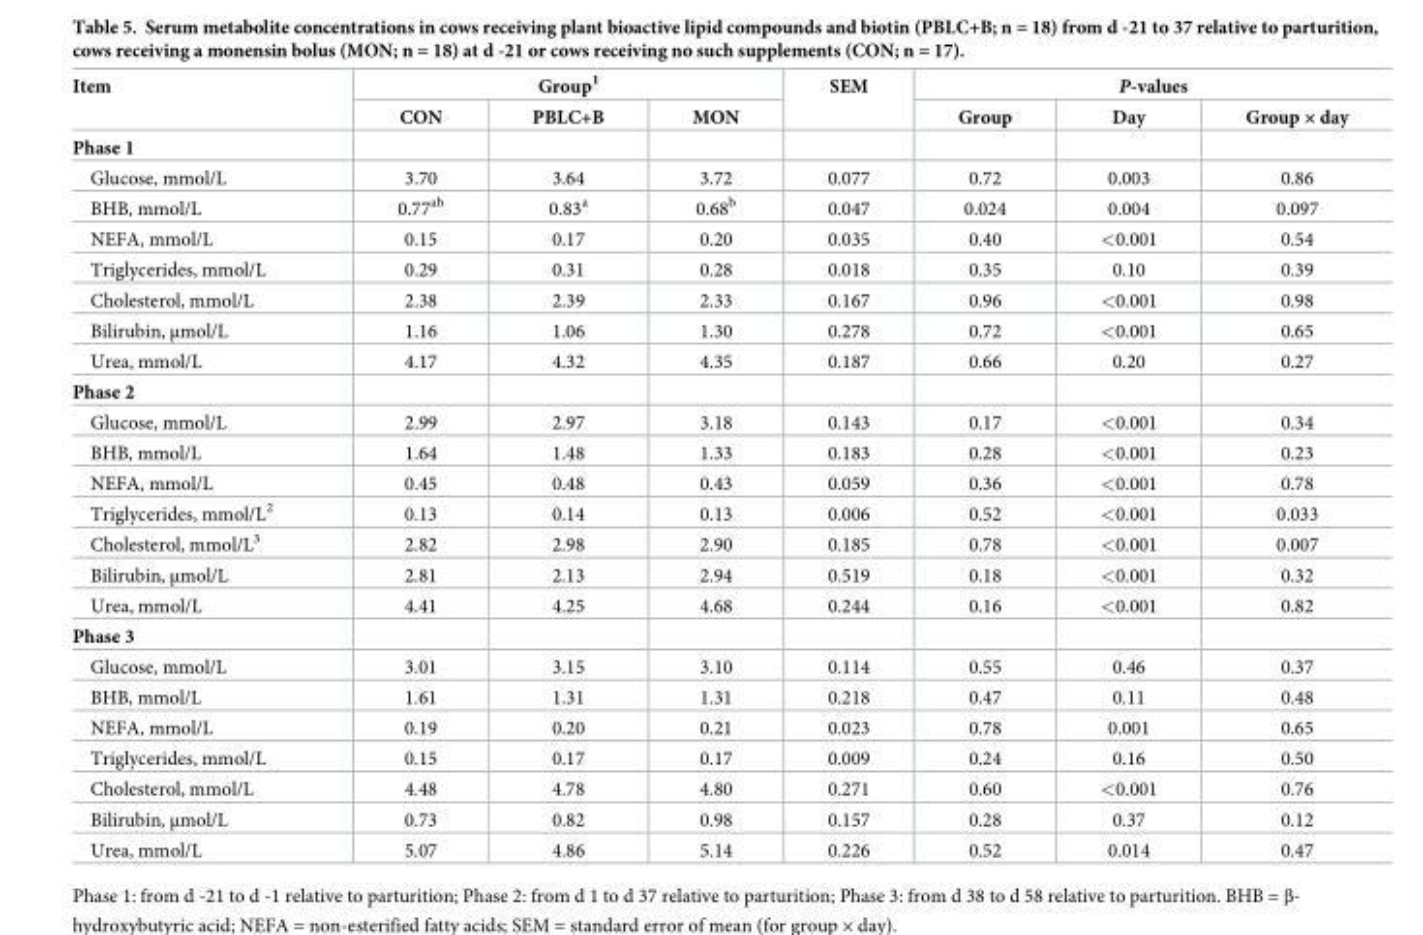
<table><thead><tr><td rowspan="2">Item</td><td colspan="3">Group<sup>1</sup></td><td rowspan="2">SEM</td><td colspan="3">P-values</td></tr><tr><td>CON</td><td>PBLC+B</td><td>MON</td><td>Group</td><td>Day</td><td>Group × day</td></tr></thead><tbody><tr><td colspan="8">Phase 1</td></tr><tr><td>Glucose, mmol/L</td><td>3.70</td><td>3.64</td><td>3.72</td><td>0.077</td><td>0.72</td><td>0.003</td><td>0.86</td></tr><tr><td>BHB, mmol/L</td><td>0.77<sup>ab</sup></td><td>0.83<sup>a</sup></td><td>0.68<sup>b</sup></td><td>0.047</td><td>0.024</td><td>0.004</td><td>0.097</td></tr><tr><td>NEFA, mmol/L</td><td>0.15</td><td>0.17</td><td>0.20</td><td>0.035</td><td>0.40</td><td>&lt;0.001</td><td>0.54</td></tr><tr><td>Triglycerides, mmol/L</td><td>0.29</td><td>0.31</td><td>0.28</td><td>0.018</td><td>0.35</td><td>0.10</td><td>0.39</td></tr><tr><td>Cholesterol, mmol/L</td><td>2.38</td><td>2.39</td><td>2.33</td><td>0.167</td><td>0.96</td><td>&lt;0.001</td><td>0.98</td></tr><tr><td>Bilirubin, μmol/L</td><td>1.16</td><td>1.06</td><td>1.30</td><td>0.278</td><td>0.72</td><td>&lt;0.001</td><td>0.65</td></tr><tr><td>Urea, mmol/L</td><td>4.17</td><td>4.32</td><td>4.35</td><td>0.187</td><td>0.66</td><td>0.20</td><td>0.27</td></tr><tr><td colspan="8">Phase 2</td></tr><tr><td>Glucose, mmol/L</td><td>2.99</td><td>2.97</td><td>3.18</td><td>0.143</td><td>0.17</td><td>&lt;0.001</td><td>0.34</td></tr><tr><td>BHB, mmol/L</td><td>1.64</td><td>1.48</td><td>1.33</td><td>0.183</td><td>0.28</td><td>&lt;0.001</td><td>0.23</td></tr><tr><td>NEFA, mmol/L</td><td>0.45</td><td>0.48</td><td>0.43</td><td>0.059</td><td>0.36</td><td>&lt;0.001</td><td>0.78</td></tr><tr><td>Triglycerides, mmol/L<sup>2</sup></td><td>0.13</td><td>0.14</td><td>0.13</td><td>0.006</td><td>0.52</td><td>&lt;0.001</td><td>0.033</td></tr><tr><td>Cholesterol, mmol/L<sup>3</sup></td><td>2.82</td><td>2.98</td><td>2.90</td><td>0.185</td><td>0.78</td><td>&lt;0.001</td><td>0.007</td></tr><tr><td>Bilirubin, μmol/L</td><td>2.81</td><td>2.13</td><td>2.94</td><td>0.519</td><td>0.18</td><td>&lt;0.001</td><td>0.32</td></tr><tr><td>Urea, mmol/L</td><td>4.41</td><td>4.25</td><td>4.68</td><td>0.244</td><td>0.16</td><td>&lt;0.001</td><td>0.82</td></tr><tr><td colspan="8">Phase 3</td></tr><tr><td>Glucose, mmol/L</td><td>3.01</td><td>3.15</td><td>3.10</td><td>0.114</td><td>0.55</td><td>0.46</td><td>0.37</td></tr><tr><td>BHB, mmol/L</td><td>1.61</td><td>1.31</td><td>1.31</td><td>0.218</td><td>0.47</td><td>0.11</td><td>0.48</td></tr><tr><td>NEFA, mmol/L</td><td>0.19</td><td>0.20</td><td>0.21</td><td>0.023</td><td>0.78</td><td>0.001</td><td>0.65</td></tr><tr><td>Triglycerides, mmol/L</td><td>0.15</td><td>0.17</td><td>0.17</td><td>0.009</td><td>0.24</td><td>0.16</td><td>0.50</td></tr><tr><td>Cholesterol, mmol/L</td><td>4.48</td><td>4.78</td><td>4.80</td><td>0.271</td><td>0.60</td><td>&lt;0.001</td><td>0.76</td></tr><tr><td>Bilirubin, μmol/L</td><td>0.73</td><td>0.82</td><td>0.98</td><td>0.157</td><td>0.28</td><td>0.37</td><td>0.12</td></tr><tr><td>Urea, mmol/L</td><td>5.07</td><td>4.86</td><td>5.14</td><td>0.226</td><td>0.52</td><td>0.014</td><td>0.47</td></tr></tbody></table>